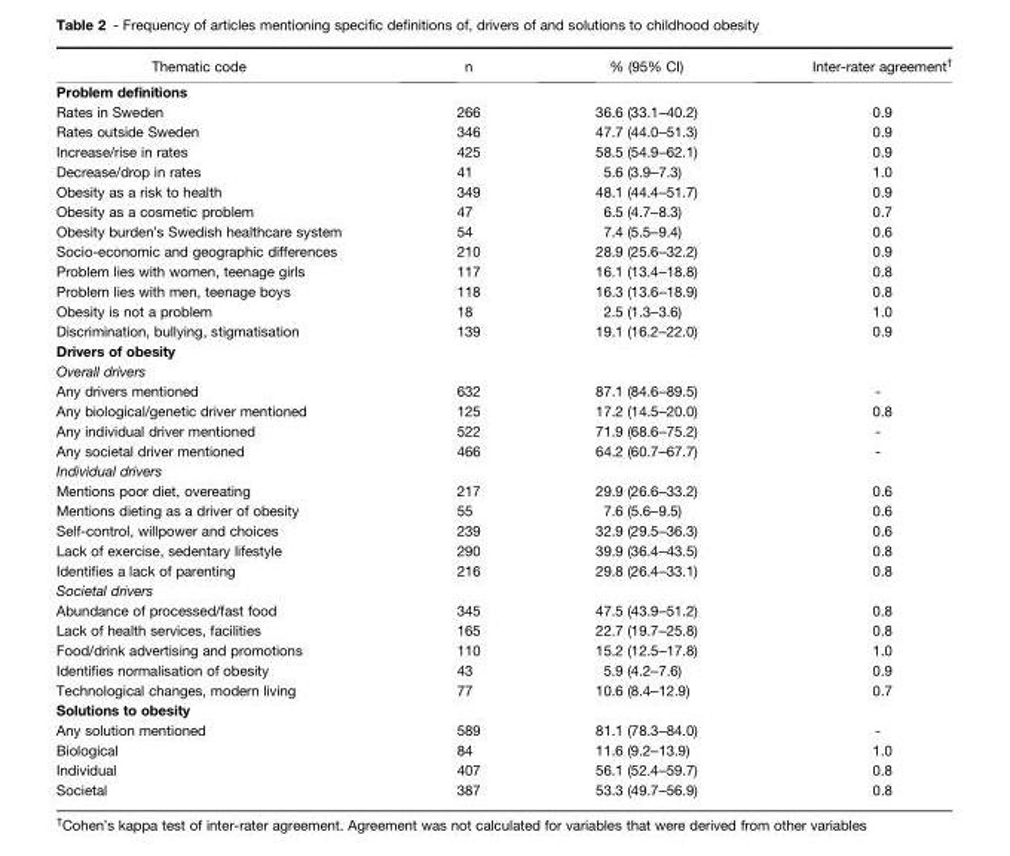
<table><thead><tr><td>Thematic code</td><td>n</td><td>% (95% CI)</td><td>Inter-rater agreement†</td></tr></thead><tbody><tr><td colspan="4">Problem definitions</td></tr><tr><td>Rates in Sweden</td><td>266</td><td>36.6 (33.1–40.2)</td><td>0.9</td></tr><tr><td>Rates outside Sweden</td><td>346</td><td>47.7 (44.0–51.3)</td><td>0.9</td></tr><tr><td>Increase/rise in rates</td><td>425</td><td>58.5 (54.9–62.1)</td><td>0.9</td></tr><tr><td>Decrease/drop in rates</td><td>41</td><td>5.6 (3.9–7.3)</td><td>1.0</td></tr><tr><td>Obesity as a risk to health</td><td>349</td><td>48.1 (44.4–51.7)</td><td>0.9</td></tr><tr><td>Obesity as a cosmetic problem</td><td>47</td><td>6.5 (4.7–8.3)</td><td>0.7</td></tr><tr><td>Obesity burden’s Swedish healthcare system</td><td>54</td><td>7.4 (5.5–9.4)</td><td>0.6</td></tr><tr><td>Socio-economic and geographic differences</td><td>210</td><td>28.9 (25.6–32.2)</td><td>0.9</td></tr><tr><td>Problem lies with women, teenage girls</td><td>117</td><td>16.1 (13.4–18.8)</td><td>0.8</td></tr><tr><td>Problem lies with men, teenage boys</td><td>118</td><td>16.3 (13.6–18.9)</td><td>0.8</td></tr><tr><td>Obesity is not a problem</td><td>18</td><td>2.5 (1.3–3.6)</td><td>1.0</td></tr><tr><td>Discrimination, bullying, stigmatisation</td><td>139</td><td>19.1 (16.2–22.0)</td><td>0.9</td></tr><tr><td colspan="4">Drivers of obesity</td></tr><tr><td colspan="4">Overall drivers</td></tr><tr><td>Any drivers mentioned</td><td>632</td><td>87.1 (84.6–89.5)</td><td>-</td></tr><tr><td>Any biological/genetic driver mentioned</td><td>125</td><td>17.2 (14.5–20.0)</td><td>0.8</td></tr><tr><td>Any individual driver mentioned</td><td>522</td><td>71.9 (68.6–75.2)</td><td>-</td></tr><tr><td>Any societal driver mentioned</td><td>466</td><td>64.2 (60.7–67.7)</td><td>-</td></tr><tr><td colspan="4">Individual drivers</td></tr><tr><td>Mentions poor diet, overeating</td><td>217</td><td>29.9 (26.6–33.2)</td><td>0.6</td></tr><tr><td>Mentions dieting as a driver of obesity</td><td>55</td><td>7.6 (5.6–9.5)</td><td>0.6</td></tr><tr><td>Self-control, willpower and choices</td><td>239</td><td>32.9 (29.5–36.3)</td><td>0.6</td></tr><tr><td>Lack of exercise, sedentary lifestyle</td><td>290</td><td>39.9 (36.4–43.5)</td><td>0.8</td></tr><tr><td>Identifies a lack of parenting</td><td>216</td><td>29.8 (26.4–33.1)</td><td>0.8</td></tr><tr><td colspan="4">Societal drivers</td></tr><tr><td>Abundance of processed/fast food</td><td>345</td><td>47.5 (43.9–51.2)</td><td>0.8</td></tr><tr><td>Lack of health services, facilities</td><td>165</td><td>22.7 (19.7–25.8)</td><td>0.8</td></tr><tr><td>Food/drink advertising and promotions</td><td>110</td><td>15.2 (12.5–17.8)</td><td>1.0</td></tr><tr><td>Identifies normalisation of obesity</td><td>43</td><td>5.9 (4.2–7.6)</td><td>0.9</td></tr><tr><td>Technological changes, modern living</td><td>77</td><td>10.6 (8.4–12.9)</td><td>0.7</td></tr><tr><td colspan="4">Solutions to obesity</td></tr><tr><td>Any solution mentioned</td><td>589</td><td>81.1 (78.3–84.0)</td><td>-</td></tr><tr><td>Biological</td><td>84</td><td>11.6 (9.2–13.9)</td><td>1.0</td></tr><tr><td>Individual</td><td>407</td><td>56.1 (52.4–59.7)</td><td>0.8</td></tr><tr><td>Societal</td><td>387</td><td>53.3 (49.7–56.9)</td><td>0.8</td></tr></tbody></table>